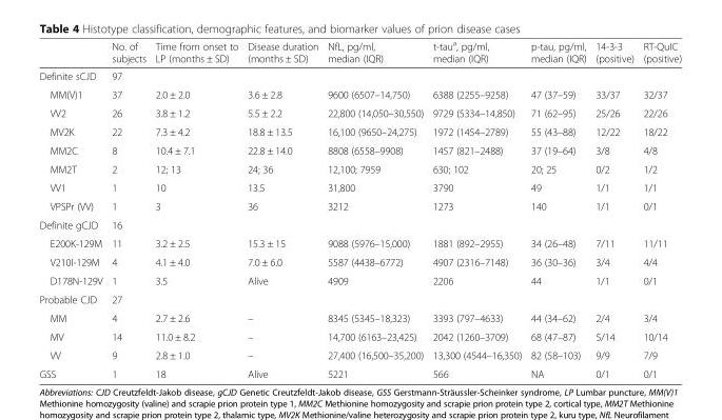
<table><thead><tr><td></td><td>No. of subjects</td><td>Time from onset to LP (months ± SD)</td><td>Disease duration (months ± SD)</td><td>NfL, pg/ml, median (IQR)</td><td>t-tau<sup>a</sup>, pg/ml, median (IQR)</td><td>p-tau, pg/ml, median (IQR)</td><td>14-3-3 (positive)</td><td>RT-QuIC (positive)</td></tr></thead><tbody><tr><td>Definite sCJD</td><td>97</td><td></td><td></td><td></td><td></td><td></td><td></td><td></td></tr><tr><td>MM(V)1</td><td>37</td><td>2.0 ± 2.0</td><td>3.6 ± 2.8</td><td>9600 (6507–14,750)</td><td>6388 (2255–9258)</td><td>47 (37–59)</td><td>33/37</td><td>32/37</td></tr><tr><td>VV2</td><td>26</td><td>3.8 ± 1.2</td><td>5.5 ± 2.2</td><td>22,800 (14,050–30,550)</td><td>9729 (5334–14,850)</td><td>71 (62–95)</td><td>25/26</td><td>22/26</td></tr><tr><td>MV2K</td><td>22</td><td>7.3 ± 4.2</td><td>18.8 ± 13.5</td><td>16,100 (9650–24,275)</td><td>1972 (1454–2789)</td><td>55 (43–88)</td><td>12/22</td><td>18/22</td></tr><tr><td>MM2C</td><td>8</td><td>10.4 ± 7.1</td><td>22.8 ± 14.0</td><td>8808 (6558–9908)</td><td>1457 (821–2488)</td><td>37 (19–64)</td><td>3/8</td><td>4/8</td></tr><tr><td>MM2T</td><td>2</td><td>12; 13</td><td>24; 36</td><td>12,100; 7959</td><td>630; 102</td><td>20; 25</td><td>0/2</td><td>1/2</td></tr><tr><td>VV1</td><td>1</td><td>10</td><td>13.5</td><td>31,800</td><td>3790</td><td>49</td><td>1/1</td><td>1/1</td></tr><tr><td>VPSPr (VV)</td><td>1</td><td>3</td><td>36</td><td>3212</td><td>1273</td><td>140</td><td>1/1</td><td>0/1</td></tr><tr><td>Definite gCJD</td><td>16</td><td></td><td></td><td></td><td></td><td></td><td></td><td></td></tr><tr><td>E200K-129M</td><td>11</td><td>3.2 ± 2.5</td><td>15.3 ± 15</td><td>9088 (5976–15,000)</td><td>1881 (892–2955)</td><td>34 (26–48)</td><td>7/11</td><td>11/11</td></tr><tr><td>V210I-129M</td><td>4</td><td>4.1 ± 4.0</td><td>7.0 ± 6.0</td><td>5587 (4438–6772)</td><td>4907 (2316–7148)</td><td>36 (30–36)</td><td>3/4</td><td>4/4</td></tr><tr><td>D178N-129V</td><td>1</td><td>3.5</td><td>Alive</td><td>4909</td><td>2206</td><td>44</td><td>1/1</td><td>0/1</td></tr><tr><td>Probable CJD</td><td>27</td><td></td><td></td><td></td><td></td><td></td><td></td><td></td></tr><tr><td>MM</td><td>4</td><td>2.7 ± 2.6</td><td>–</td><td>8345 (5345–18,323)</td><td>3393 (797–4633)</td><td>44 (34–62)</td><td>2/4</td><td>3/4</td></tr><tr><td>MV</td><td>14</td><td>11.0 ± 8.2</td><td>–</td><td>14,700 (6163–23,425)</td><td>2042 (1260–3709)</td><td>68 (47–87)</td><td>5/14</td><td>10/14</td></tr><tr><td>VV</td><td>9</td><td>2.8 ± 1.0</td><td>–</td><td>27,400 (16,500–35,200)</td><td>13,300 (4544–16,350)</td><td>82 (58–103)</td><td>9/9</td><td>7/9</td></tr><tr><td>GSS</td><td>1</td><td>18</td><td>Alive</td><td>5221</td><td>566</td><td>NA</td><td>0/1</td><td>0/1</td></tr></tbody></table>